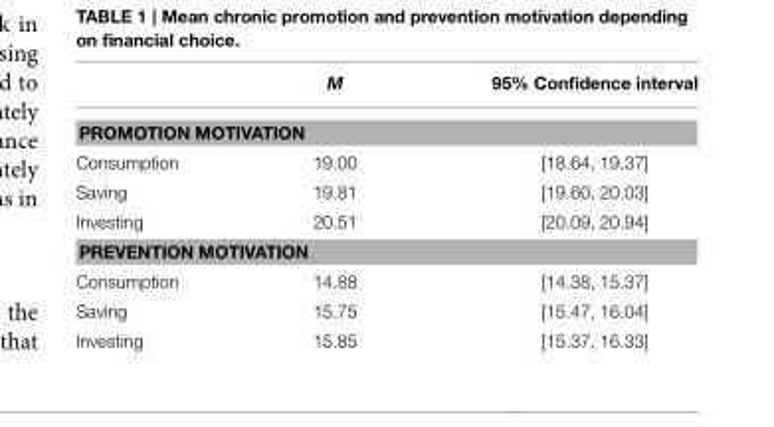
<table><thead><tr><td></td><td>M</td><td>95% Confidence interval</td></tr></thead><tbody><tr><td colspan="3">PROMOTION MOTIVATION</td></tr><tr><td>Consumption</td><td>19.00</td><td>[18.64, 19.37]</td></tr><tr><td>Saving</td><td>19.81</td><td>[19.60, 20.03]</td></tr><tr><td>Investing</td><td>20.51</td><td>[20.09, 20.94]</td></tr><tr><td colspan="3">PREVENTION MOTIVATION</td></tr><tr><td>Consumption</td><td>14.88</td><td>[14.38, 15.37]</td></tr><tr><td>Saving</td><td>15.75</td><td>[15.47, 16.04]</td></tr><tr><td>Investing</td><td>15.85</td><td>[15.37, 16.33]</td></tr></tbody></table>